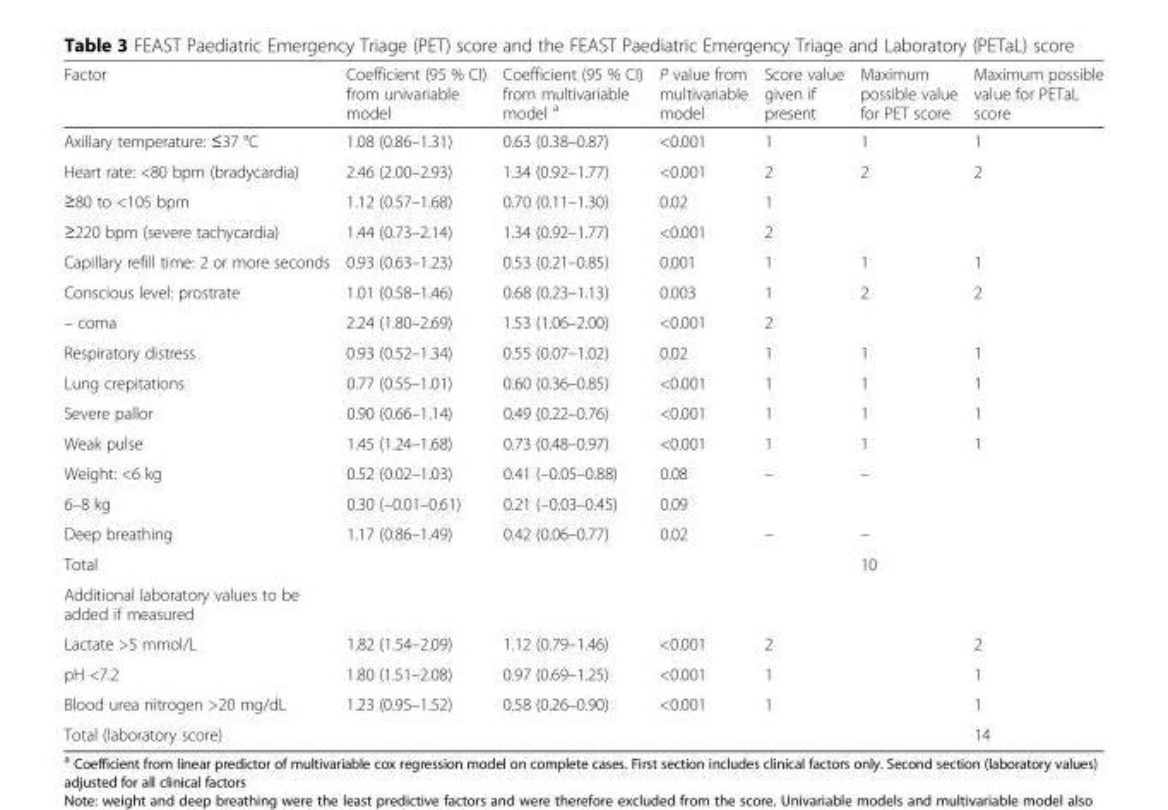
<table><thead><tr><td>Factor</td><td>Coefficient (95 % CI) from univariable model</td><td>Coefficient (95 % CI) from multivariable model <sup>a</sup></td><td>P value from multivariable model</td><td>Score value given if present</td><td>Maximum possible value for PET score</td><td>Maximum possible value for PETaL score</td></tr></thead><tbody><tr><td>Axillary temperature: ≤37 °C</td><td>1.08 (0.86–1.31)</td><td>0.63 (0.38–0.87)</td><td>&lt;0.001</td><td>1</td><td>1</td><td>1</td></tr><tr><td>Heart rate: &lt;80 bpm (bradycardia)</td><td>2.46 (2.00–2.93)</td><td>1.34 (0.92–1.77)</td><td>&lt;0.001</td><td>2</td><td rowspan="3">2</td><td rowspan="3">2</td></tr><tr><td>≥80 to &lt;105 bpm</td><td>1.12 (0.57–1.68)</td><td>0.70 (0.11–1.30)</td><td>0.02</td><td>1</td></tr><tr><td>≥220 bpm (severe tachycardia)</td><td>1.44 (0.73–2.14)</td><td>1.34 (0.92–1.77)</td><td>&lt;0.001</td><td>2</td></tr><tr><td>Capillary refill time: 2 or more seconds</td><td>0.93 (0.63–1.23)</td><td>0.53 (0.21–0.85)</td><td>0.001</td><td>1</td><td>1</td><td>1</td></tr><tr><td>Conscious level: prostrate</td><td>1.01 (0.58–1.46)</td><td>0.68 (0.23–1.13)</td><td>0.003</td><td>1</td><td rowspan="2">2</td><td rowspan="2">2</td></tr><tr><td>– coma</td><td>2.24 (1.80–2.69)</td><td>1.53 (1.06–2.00)</td><td>&lt;0.001</td><td>2</td></tr><tr><td>Respiratory distress</td><td>0.93 (0.52–1.34)</td><td>0.55 (0.07–1.02)</td><td>0.02</td><td>1</td><td>1</td><td>1</td></tr><tr><td>Lung crepitations</td><td>0.77 (0.55–1.01)</td><td>0.60 (0.36–0.85)</td><td>&lt;0.001</td><td>1</td><td>1</td><td>1</td></tr><tr><td>Severe pallor</td><td>0.90 (0.66–1.14)</td><td>0.49 (0.22–0.76)</td><td>&lt;0.001</td><td>1</td><td>1</td><td>1</td></tr><tr><td>Weak pulse</td><td>1.45 (1.24–1.68)</td><td>0.73 (0.48–0.97)</td><td>&lt;0.001</td><td>1</td><td>1</td><td>1</td></tr><tr><td>Weight: &lt;6 kg</td><td>0.52 (0.02–1.03)</td><td>0.41 (–0.05–0.88)</td><td>0.08</td><td>–</td><td>–</td><td></td></tr><tr><td>6–8 kg</td><td>0.30 (–0.01–0.61)</td><td>0.21 (–0.03–0.45)</td><td>0.09</td><td></td><td></td><td></td></tr><tr><td>Deep breathing</td><td>1.17 (0.86–1.49)</td><td>0.42 (0.06–0.77)</td><td>0.02</td><td>–</td><td>–</td><td></td></tr><tr><td>Total</td><td></td><td></td><td></td><td></td><td>10</td><td></td></tr><tr><td colspan="7">Additional laboratory values to be added if measured</td></tr><tr><td>Lactate &gt;5 mmol/L</td><td>1.82 (1.54–2.09)</td><td>1.12 (0.79–1.46)</td><td>&lt;0.001</td><td>2</td><td></td><td>2</td></tr><tr><td>pH &lt;7.2</td><td>1.80 (1.51–2.08)</td><td>0.97 (0.69–1.25)</td><td>&lt;0.001</td><td>1</td><td></td><td>1</td></tr><tr><td>Blood urea nitrogen &gt;20 mg/dL</td><td>1.23 (0.95–1.52)</td><td>0.58 (0.26–0.90)</td><td>&lt;0.001</td><td>1</td><td></td><td>1</td></tr><tr><td>Total (laboratory score)</td><td></td><td></td><td></td><td></td><td></td><td>14</td></tr></tbody></table>